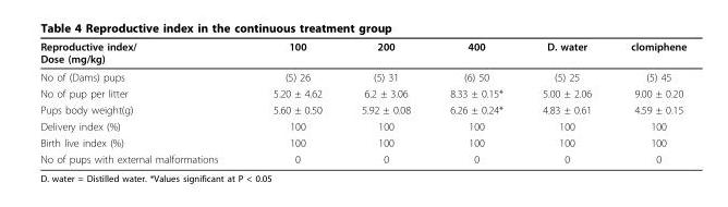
<table><thead><tr><td>Reproductive index/ Dose (mg/kg)</td><td>100</td><td>200</td><td>400</td><td>D. water</td><td>clomiphene</td></tr></thead><tbody><tr><td>No of (Dams) pups</td><td>(5) 26</td><td>(5) 31</td><td>(6) 50</td><td>(5) 25</td><td>(5) 45</td></tr><tr><td>No of pup per litter</td><td>5.20 ± 4.62</td><td>6.2 ± 3.06</td><td>8.33 ± 0.15*</td><td>5.00 ± 2.06</td><td>9.00 ± 0.20</td></tr><tr><td>Pups body weight(g)</td><td>5.60 ± 0.50</td><td>5.92 ± 0.08</td><td>6.26 ± 0.24*</td><td>4.83 ± 0.61</td><td>4.59 ± 0.15</td></tr><tr><td>Delivery index (%)</td><td>100</td><td>100</td><td>100</td><td>100</td><td>100</td></tr><tr><td>Birth live index (%)</td><td>100</td><td>100</td><td>100</td><td>100</td><td>100</td></tr><tr><td>No of pups with external malformations</td><td>0</td><td>0</td><td>0</td><td>0</td><td>0</td></tr></tbody></table>